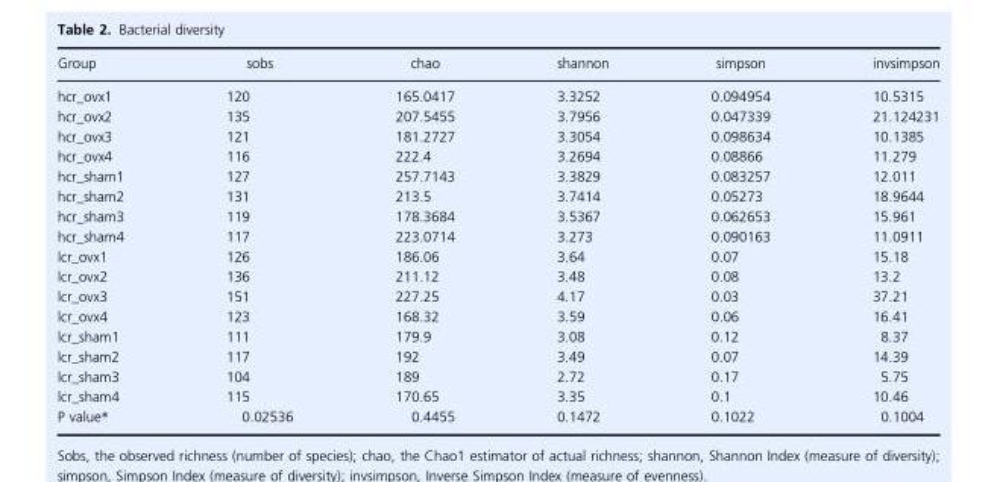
<table><thead><tr><td>Group</td><td>sobs</td><td>chao</td><td>shannon</td><td>simpson</td><td>invsimpson</td></tr></thead><tbody><tr><td>hcr_ovx1</td><td>120</td><td>165.0417</td><td>3.3252</td><td>0.094954</td><td>10.5315</td></tr><tr><td>hcr_ovx2</td><td>135</td><td>207.5455</td><td>3.7956</td><td>0.047339</td><td>21.124231</td></tr><tr><td>hcr_ovx3</td><td>121</td><td>181.2727</td><td>3.3054</td><td>0.098634</td><td>10.1385</td></tr><tr><td>hcr_ovx4</td><td>116</td><td>222.4</td><td>3.2694</td><td>0.08866</td><td>11.279</td></tr><tr><td>hcr_sham1</td><td>127</td><td>257.7143</td><td>3.3829</td><td>0.083257</td><td>12.011</td></tr><tr><td>hcr_sham2</td><td>131</td><td>213.5</td><td>3.7414</td><td>0.05273</td><td>18.9644</td></tr><tr><td>hcr_sham3</td><td>119</td><td>178.3684</td><td>3.5367</td><td>0.062653</td><td>15.961</td></tr><tr><td>hcr_sham4</td><td>117</td><td>223.0714</td><td>3.273</td><td>0.090163</td><td>11.0911</td></tr><tr><td>lcr_ovx1</td><td>126</td><td>186.06</td><td>3.64</td><td>0.07</td><td>15.18</td></tr><tr><td>lcr_ovx2</td><td>136</td><td>211.12</td><td>3.48</td><td>0.08</td><td>13.2</td></tr><tr><td>lcr_ovx3</td><td>151</td><td>227.25</td><td>4.17</td><td>0.03</td><td>37.21</td></tr><tr><td>lcr_ovx4</td><td>123</td><td>168.32</td><td>3.59</td><td>0.06</td><td>16.41</td></tr><tr><td>lcr_sham1</td><td>111</td><td>179.9</td><td>3.08</td><td>0.12</td><td>8.37</td></tr><tr><td>lcr_sham2</td><td>117</td><td>192</td><td>3.49</td><td>0.07</td><td>14.39</td></tr><tr><td>lcr_sham3</td><td>104</td><td>189</td><td>2.72</td><td>0.17</td><td>5.75</td></tr><tr><td>lcr_sham4</td><td>115</td><td>170.65</td><td>3.35</td><td>0.1</td><td>10.46</td></tr><tr><td>P value*</td><td>0.02536</td><td>0.4455</td><td>0.1472</td><td>0.1022</td><td>0.1004</td></tr></tbody></table>